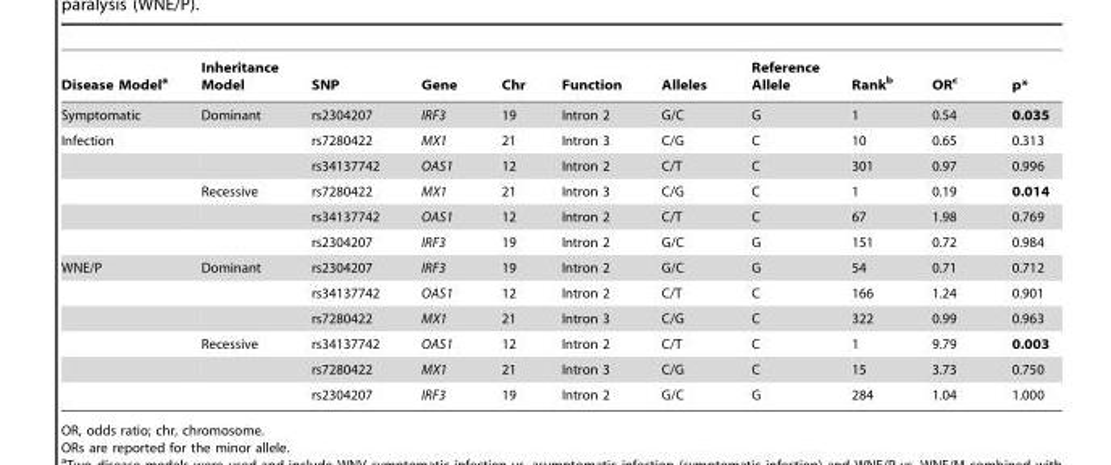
<table><thead><tr><td>Disease Model<sup>a</sup></td><td>Inheritance Model</td><td>SNP</td><td>Gene</td><td>Chr</td><td>Function</td><td>Alleles</td><td>Reference Allele</td><td>Rank<sup>b</sup></td><td>OR<sup>c</sup></td><td>p*</td></tr></thead><tbody><tr><td>Symptomatic</td><td>Dominant</td><td>rs2304207</td><td>IRF3</td><td>19</td><td>Intron 2</td><td>G/C</td><td>G</td><td>1</td><td>0.54</td><td>0.035</td></tr><tr><td rowspan="5">Infection</td><td></td><td>rs7280422</td><td>MX1</td><td>21</td><td>Intron 3</td><td>C/G</td><td>C</td><td>10</td><td>0.65</td><td>0.313</td></tr><tr><td></td><td>rs34137742</td><td>OAS1</td><td>12</td><td>Intron 2</td><td>C/T</td><td>C</td><td>301</td><td>0.97</td><td>0.996</td></tr><tr><td>Recessive</td><td>rs7280422</td><td>MX1</td><td>21</td><td>Intron 3</td><td>C/G</td><td>C</td><td>1</td><td>0.19</td><td>0.014</td></tr><tr><td></td><td>rs34137742</td><td>OAS1</td><td>12</td><td>Intron 2</td><td>C/T</td><td>C</td><td>67</td><td>1.98</td><td>0.769</td></tr><tr><td></td><td>rs2304207</td><td>IRF3</td><td>19</td><td>Intron 2</td><td>G/C</td><td>G</td><td>151</td><td>0.72</td><td>0.984</td></tr><tr><td rowspan="6">WNE/P</td><td>Dominant</td><td>rs2304207</td><td>IRF3</td><td>19</td><td>Intron 2</td><td>G/C</td><td>G</td><td>54</td><td>0.71</td><td>0.712</td></tr><tr><td></td><td>rs34137742</td><td>OAS1</td><td>12</td><td>Intron 2</td><td>C/T</td><td>C</td><td>166</td><td>1.24</td><td>0.901</td></tr><tr><td></td><td>rs7280422</td><td>MX1</td><td>21</td><td>Intron 3</td><td>C/G</td><td>C</td><td>322</td><td>0.99</td><td>0.963</td></tr><tr><td>Recessive</td><td>rs34137742</td><td>OAS1</td><td>12</td><td>Intron 2</td><td>C/T</td><td>C</td><td>1</td><td>9.79</td><td>0.003</td></tr><tr><td></td><td>rs7280422</td><td>MX1</td><td>21</td><td>Intron 3</td><td>C/G</td><td>C</td><td>15</td><td>3.73</td><td>0.750</td></tr><tr><td></td><td>rs2304207</td><td>IRF3</td><td>19</td><td>Intron 2</td><td>G/C</td><td>G</td><td>284</td><td>1.04</td><td>1.000</td></tr></tbody></table>